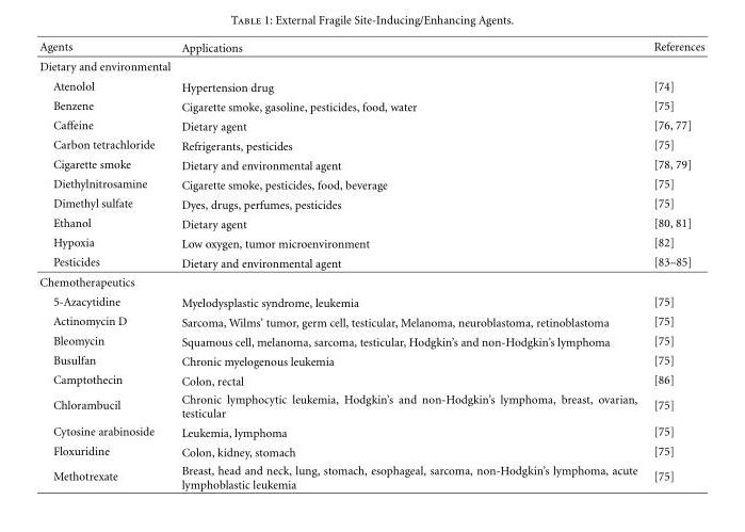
<table><thead><tr><td>Agents</td><td>Applications</td><td>References</td></tr></thead><tbody><tr><td colspan="3">Dietary and environmental</td></tr><tr><td>Atenolol</td><td>Hypertension drug</td><td>[74]</td></tr><tr><td>Benzene</td><td>Cigarette smoke, gasoline, pesticides, food, water</td><td>[75]</td></tr><tr><td>Caffeine</td><td>Dietary agent</td><td>[76, 77]</td></tr><tr><td>Carbon tetrachloride</td><td>Refrigerants, pesticides</td><td>[75]</td></tr><tr><td>Cigarette smoke</td><td>Dietary and environmental agent</td><td>[78, 79]</td></tr><tr><td>Diethylnitrosamine</td><td>Cigarette smoke, pesticides, food, beverage</td><td>[75]</td></tr><tr><td>Dimethyl sulfate</td><td>Dyes, drugs, perfumes, pesticides</td><td>[75]</td></tr><tr><td>Ethanol</td><td>Dietary agent</td><td>[80, 81]</td></tr><tr><td>Hypoxia</td><td>Low oxygen, tumor microenvironment</td><td>[82]</td></tr><tr><td>Pesticides</td><td>Dietary and environmental agent</td><td>[83–85]</td></tr><tr><td colspan="3">Chemotherapeutics</td></tr><tr><td>5-Azacytidine</td><td>Myelodysplastic syndrome, leukemia</td><td>[75]</td></tr><tr><td>Actinomycin D</td><td>Sarcoma, Wilms’ tumor, germ cell, testicular, Melanoma, neuroblastoma, retinoblastoma</td><td>[75]</td></tr><tr><td>Bleomycin</td><td>Squamous cell, melanoma, sarcoma, testicular, Hodgkin’s and non-Hodgkin’s lymphoma</td><td>[75]</td></tr><tr><td>Busulfan</td><td>Chronic myelogenous leukemia</td><td>[75]</td></tr><tr><td>Camptothecin</td><td>Colon, rectal</td><td>[86]</td></tr><tr><td>Chlorambucil</td><td>Chronic lymphocytic leukemia, Hodgkin’s and non-Hodgkin’s lymphoma, breast, ovarian, testicular</td><td>[75]</td></tr><tr><td>Cytosine arabinoside</td><td>Leukemia, lymphoma</td><td>[75]</td></tr><tr><td>Floxuridine</td><td>Colon, kidney, stomach</td><td>[75]</td></tr><tr><td>Methotrexate</td><td>Breast, head and neck, lung, stomach, esophageal, sarcoma, non-Hodgkin’s lymphoma, acute lymphoblastic leukemia</td><td>[75]</td></tr></tbody></table>